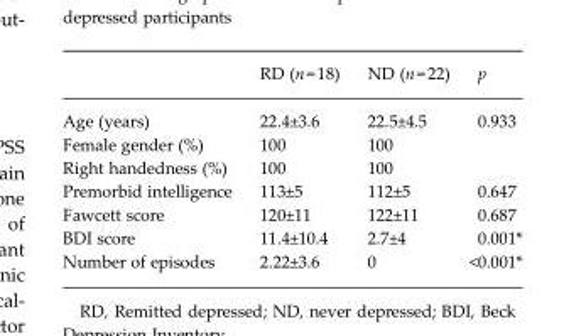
<table><thead><tr><td></td><td>RD (n=18)</td><td>ND (n=22)</td><td>p</td></tr></thead><tbody><tr><td>Age (years)</td><td>22.4±3.6</td><td>22.5±4.5</td><td>0.933</td></tr><tr><td>Female gender (%)</td><td>100</td><td>100</td><td></td></tr><tr><td>Right handedness (%)</td><td>100</td><td>100</td><td></td></tr><tr><td>Premorbid intelligence</td><td>113±5</td><td>112±5</td><td>0.647</td></tr><tr><td>Fawcett score</td><td>120±11</td><td>122±11</td><td>0.687</td></tr><tr><td>BDI score</td><td>11.4±10.4</td><td>2.7±4</td><td>0.001*</td></tr><tr><td>Number of episodes</td><td>2.22±3.6</td><td>0</td><td>&lt;0.001*</td></tr></tbody></table>